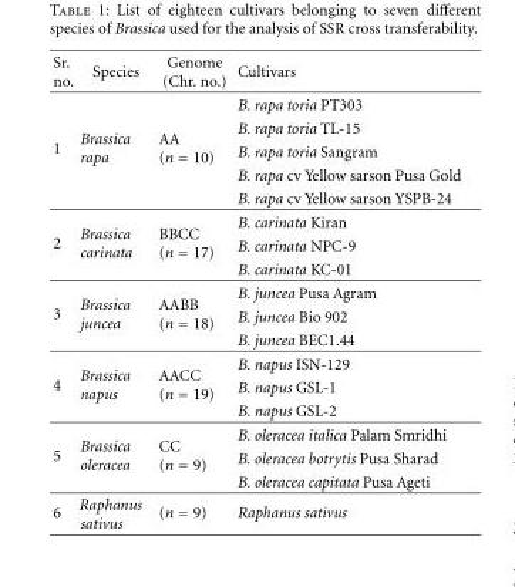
<table><thead><tr><td>Sr. no.</td><td>Species</td><td>Genome (Chr. no.)</td><td>Cultivars</td></tr></thead><tbody><tr><td rowspan="5">1</td><td rowspan="5">Brassica rapa</td><td rowspan="5">AA (n = 10)</td><td>B. rapa toria PT303</td></tr><tr><td>B. rapa toria TL-15</td></tr><tr><td>B. rapa toria Sangram</td></tr><tr><td>B. rapa cv Yellow sarson Pusa Gold</td></tr><tr><td>B. rapa cv Yellow sarson YSPB-24</td></tr><tr><td rowspan="3">2</td><td rowspan="3">Brassica carinata</td><td rowspan="3">BBCC (n = 17)</td><td>B. carinata Kiran</td></tr><tr><td>B. carinata NPC-9</td></tr><tr><td>B. carinata KC-01</td></tr><tr><td rowspan="3">3</td><td rowspan="3">Brassica juncea</td><td rowspan="3">AABB (n = 18)</td><td>B. juncea Pusa Agram</td></tr><tr><td>B. juncea Bio 902</td></tr><tr><td>B. juncea BEC1.44</td></tr><tr><td rowspan="3">4</td><td rowspan="3">Brassica napus</td><td rowspan="3">AACC (n = 19)</td><td>B. napus ISN-129</td></tr><tr><td>B. napus GSL-1</td></tr><tr><td>B. napus GSL-2</td></tr><tr><td rowspan="3">5</td><td rowspan="3">Brassica oleracea</td><td rowspan="3">CC (n = 9)</td><td>B. oleracea italica Palam Smridhi</td></tr><tr><td>B. oleracea botrytis Pusa Sharad</td></tr><tr><td>B. oleracea capitata Pusa Ageti</td></tr><tr><td>6</td><td>Raphanus sativus</td><td>(n = 9)</td><td>Raphanus sativus</td></tr></tbody></table>